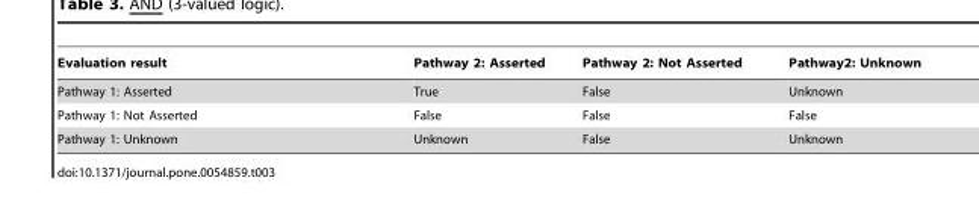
<table><thead><tr><td>Evaluation result</td><td>Pathway 2: Asserted</td><td>Pathway 2: Not Asserted</td><td>Pathway2: Unknown</td></tr></thead><tbody><tr><td>Pathway 1: Asserted</td><td>True</td><td>False</td><td>Unknown</td></tr><tr><td>Pathway 1: Not Asserted</td><td>False</td><td>False</td><td>False</td></tr><tr><td>Pathway 1: Unknown</td><td>Unknown</td><td>False</td><td>Unknown</td></tr></tbody></table>